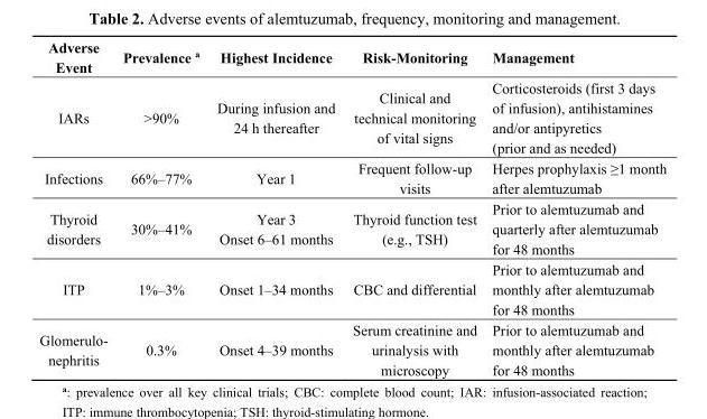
<table><thead><tr><td>Adverse Event</td><td>Prevalence <sup>a</sup></td><td>Highest Incidence</td><td>Risk-Monitoring</td><td>Management</td></tr></thead><tbody><tr><td>IARs</td><td>&gt;90%</td><td>During infusion and 24 h thereafter</td><td>Clinical and technical monitoring of vital signs</td><td>Corticosteroids (first 3 days of infusion), antihistamines and/or antipyretics (prior and as needed)</td></tr><tr><td>Infections</td><td>66%–77%</td><td>Year 1</td><td>Frequent follow-up visits</td><td>Herpes prophylaxis ≥1 month after alemtuzumab</td></tr><tr><td>Thyroid disorders</td><td>30%–41%</td><td>Year 3 Onset 6–61 months</td><td>Thyroid function test (e.g., TSH)</td><td>Prior to alemtuzumab and quarterly after alemtuzumab for 48 months</td></tr><tr><td>ITP</td><td>1%–3%</td><td>Onset 1–34 months</td><td>CBC and differential</td><td>Prior to alemtuzumab and monthly after alemtuzumab for 48 months</td></tr><tr><td>Glomerulo- nephritis</td><td>0.3%</td><td>Onset 4–39 months</td><td>Serum creatinine and urinalysis with microscopy</td><td>Prior to alemtuzumab and monthly after alemtuzumab for 48 months</td></tr></tbody></table>